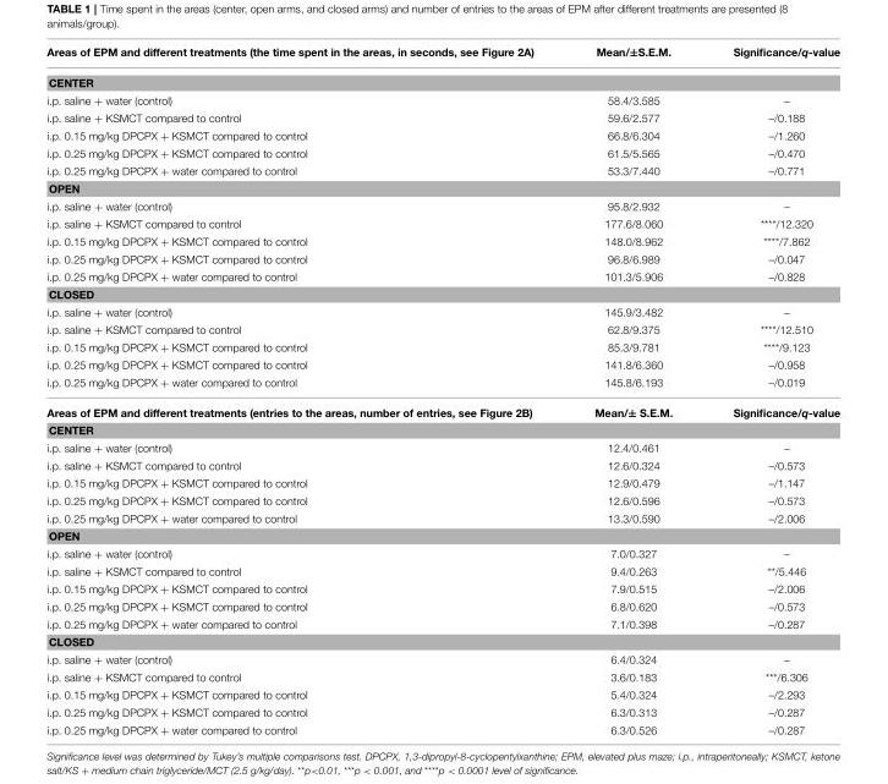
<table><thead><tr><td>Areas of EPM and different treatments (the time spent in the areas, in seconds, see Figure 2A)</td><td>Mean/±S.E.M.</td><td>Significance/q-value</td></tr></thead><tbody><tr><td colspan="3">CENTER</td></tr><tr><td>i.p. saline + water (control)</td><td>58.4/3.585</td><td>–</td></tr><tr><td>i.p. saline + KSMCT compared to control</td><td>59.6/2.577</td><td>–/0.188</td></tr><tr><td>i.p. 0.15 mg/kg DPCPX + KSMCT compared to control</td><td>66.8/6.304</td><td>–/1.260</td></tr><tr><td>i.p. 0.25 mg/kg DPCPX + KSMCT compared to control</td><td>61.5/5.565</td><td>–/0.470</td></tr><tr><td>i.p. 0.25 mg/kg DPCPX + water compared to control</td><td>53.3/7.440</td><td>–/0.771</td></tr><tr><td colspan="3">OPEN</td></tr><tr><td>i.p. saline + water (control)</td><td>95.8/2.932</td><td>–</td></tr><tr><td>i.p. saline + KSMCT compared to control</td><td>177.6/8.060</td><td>****/12.320</td></tr><tr><td>i.p. 0.15 mg/kg DPCPX + KSMCT compared to control</td><td>148.0/8.962</td><td>****/7.862</td></tr><tr><td>i.p. 0.25 mg/kg DPCPX + KSMCT compared to control</td><td>96.8/6.989</td><td>–/0.047</td></tr><tr><td>i.p. 0.25 mg/kg DPCPX + water compared to control</td><td>101.3/5.906</td><td>–/0.828</td></tr><tr><td colspan="3">CLOSED</td></tr><tr><td>i.p. saline + water (control)</td><td>145.9/3.482</td><td>–</td></tr><tr><td>i.p. saline + KSMCT compared to control</td><td>62.8/9.375</td><td>****/12.510</td></tr><tr><td>i.p. 0.15 mg/kg DPCPX + KSMCT compared to control</td><td>85.3/9.781</td><td>****/9.123</td></tr><tr><td>i.p. 0.25 mg/kg DPCPX + KSMCT compared to control</td><td>141.8/6.360</td><td>–/0.958</td></tr><tr><td>i.p. 0.25 mg/kg DPCPX + water compared to control</td><td>145.8/6.193</td><td>–/0.019</td></tr><tr><td>Areas of EPM and different treatments (entries to the areas, number of entries, see Figure 2B)</td><td>Mean/± S.E.M.</td><td>Significance/q-value</td></tr><tr><td colspan="3">CENTER</td></tr><tr><td>i.p. saline + water (control)</td><td>12.4/0.461</td><td>–</td></tr><tr><td>i.p. saline + KSMCT compared to control</td><td>12.6/0.324</td><td>–/0.573</td></tr><tr><td>i.p. 0.15 mg/kg DPCPX + KSMCT compared to control</td><td>12.9/0.479</td><td>–/1.147</td></tr><tr><td>i.p. 0.25 mg/kg DPCPX + KSMCT compared to control</td><td>12.6/0.596</td><td>–/0.573</td></tr><tr><td>i.p. 0.25 mg/kg DPCPX + water compared to control</td><td>13.3/0.590</td><td>–/2.006</td></tr><tr><td colspan="3">OPEN</td></tr><tr><td>i.p. saline + water (control)</td><td>7.0/0.327</td><td>–</td></tr><tr><td>i.p. saline + KSMCT compared to control</td><td>9.4/0.263</td><td>**/5.446</td></tr><tr><td>i.p. 0.15 mg/kg DPCPX + KSMCT compared to control</td><td>7.9/0.515</td><td>–/2.006</td></tr><tr><td>i.p. 0.25 mg/kg DPCPX + KSMCT compared to control</td><td>6.8/0.620</td><td>–/0.573</td></tr><tr><td>i.p. 0.25 mg/kg DPCPX + water compared to control</td><td>7.1/0.398</td><td>–/0.287</td></tr><tr><td colspan="3">CLOSED</td></tr><tr><td>i.p. saline + water (control)</td><td>6.4/0.324</td><td>–</td></tr><tr><td>i.p. saline + KSMCT compared to control</td><td>3.6/0.183</td><td>***/6.306</td></tr><tr><td>i.p. 0.15 mg/kg DPCPX + KSMCT compared to control</td><td>5.4/0.324</td><td>–/2.293</td></tr><tr><td>i.p. 0.25 mg/kg DPCPX + KSMCT compared to control</td><td>6.3/0.313</td><td>–/0.287</td></tr><tr><td>i.p. 0.25 mg/kg DPCPX + water compared to control</td><td>6.3/0.526</td><td>–/0.287</td></tr></tbody></table>